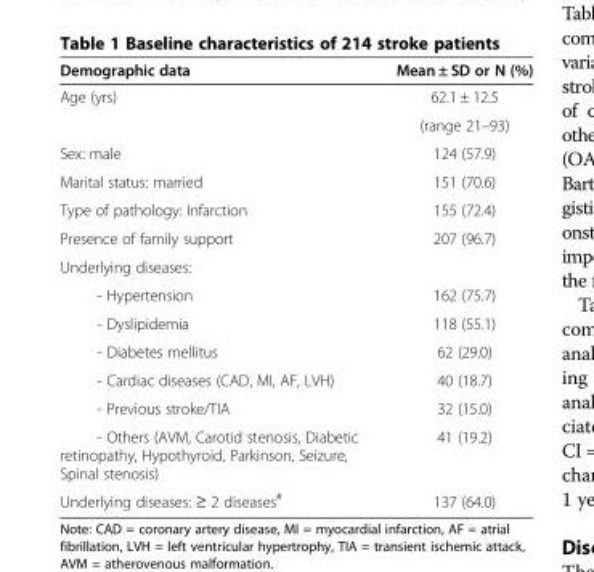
<table><thead><tr><td>Demographic data</td><td>Mean ± SD or N (%)</td></tr></thead><tbody><tr><td rowspan="2">Age (yrs)</td><td>62.1 ± 12.5</td></tr><tr><td>(range 21–93)</td></tr><tr><td>Sex: male</td><td>124 (57.9)</td></tr><tr><td>Marital status: married</td><td>151 (70.6)</td></tr><tr><td>Type of pathology: Infarction</td><td>155 (72.4)</td></tr><tr><td>Presence of family support</td><td>207 (96.7)</td></tr><tr><td colspan="2">Underlying diseases:</td></tr><tr><td>- Hypertension</td><td>162 (75.7)</td></tr><tr><td>- Dyslipidemia</td><td>118 (55.1)</td></tr><tr><td>- Diabetes mellitus</td><td>62 (29.0)</td></tr><tr><td>- Cardiac diseases (CAD, MI, AF, LVH)</td><td>40 (18.7)</td></tr><tr><td>- Previous stroke/TIA</td><td>32 (15.0)</td></tr><tr><td>- Others (AVM, Carotid stenosis, Diabetic retinopathy, Hypothyroid, Parkinson, Seizure, Spinal stenosis)</td><td>41 (19.2)</td></tr><tr><td>Underlying diseases: ≥ 2 diseases<sup>#</sup></td><td>137 (64.0)</td></tr></tbody></table>